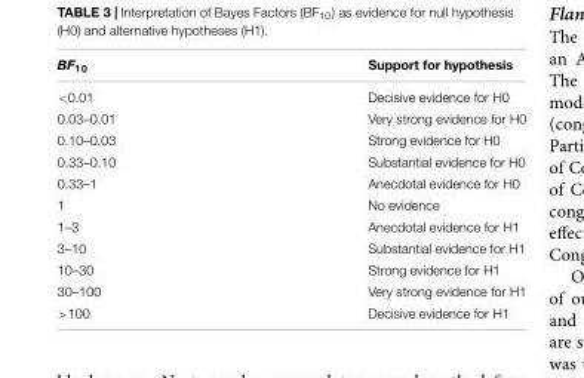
<table><thead><tr><td>BF<sub>10</sub></td><td>Support for hypothesis</td></tr></thead><tbody><tr><td>&lt;0.01</td><td>Decisive evidence for H0</td></tr><tr><td>0.03–0.01</td><td>Very strong evidence for H0</td></tr><tr><td>0.10–0.03</td><td>Strong evidence for H0</td></tr><tr><td>0.33–0.10</td><td>Substantial evidence for H0</td></tr><tr><td>0.33–1</td><td>Anecdotal evidence for H0</td></tr><tr><td>1</td><td>No evidence</td></tr><tr><td>1–3</td><td>Anecdotal evidence for H1</td></tr><tr><td>3–10</td><td>Substantial evidence for H1</td></tr><tr><td>10–30</td><td>Strong evidence for H1</td></tr><tr><td>30–100</td><td>Very strong evidence for H1</td></tr><tr><td>&gt;100</td><td>Decisive evidence for H1</td></tr></tbody></table>